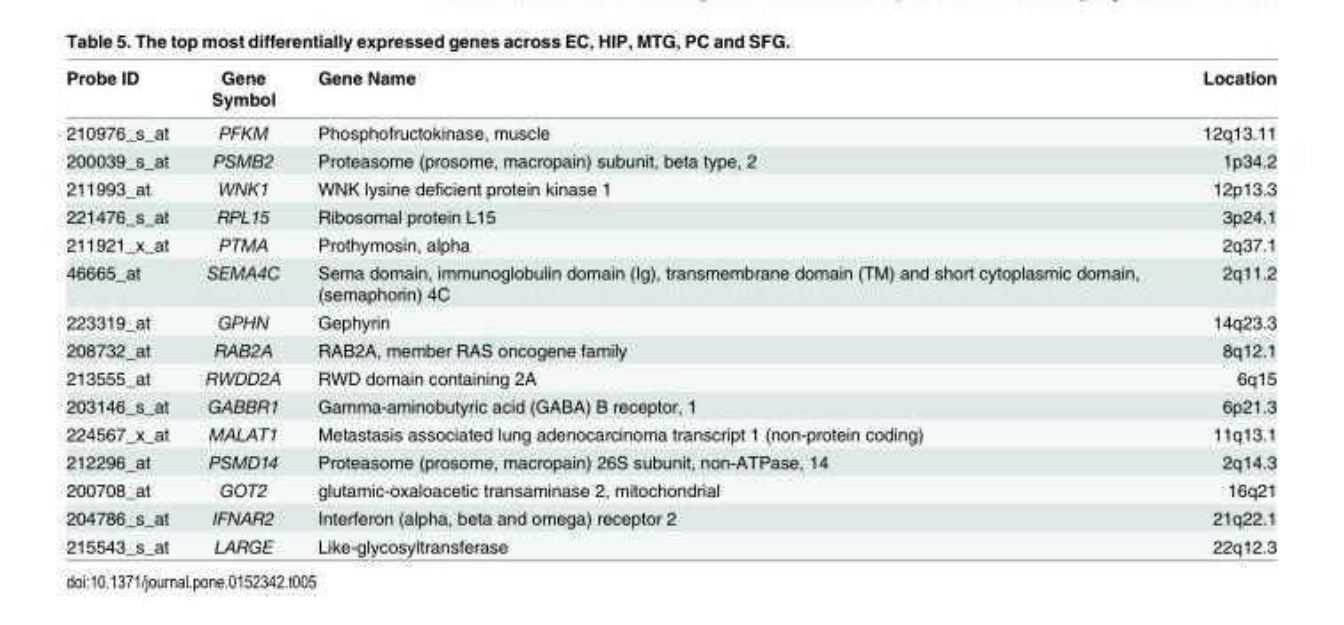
<table><thead><tr><td>Probe ID</td><td>Gene Symbol</td><td>Gene Name</td><td>Location</td></tr></thead><tbody><tr><td>210976_s_at</td><td>PFKM</td><td>Phosphofructokinase, muscle</td><td>12q13.11</td></tr><tr><td>200039_s_at</td><td>PSMB2</td><td>Proteasome (prosome, macropain) subunit, beta type, 2</td><td>1p34.2</td></tr><tr><td>211993_at</td><td>WNK1</td><td>WNK lysine deficient protein kinase 1</td><td>12p13.3</td></tr><tr><td>221476_s_at</td><td>RPL15</td><td>Ribosomal protein L15</td><td>3p24.1</td></tr><tr><td>211921_x_at</td><td>PTMA</td><td>Prothymosin, alpha</td><td>2q37.1</td></tr><tr><td>46665_at</td><td>SEMA4C</td><td>Sema domain, immunoglobulin domain (Ig), transmembrane domain (TM) and short cytoplasmic domain, (semaphorin) 4C</td><td>2q11.2</td></tr><tr><td>223319_at</td><td>GPHN</td><td>Gephyrin</td><td>14q23.3</td></tr><tr><td>208732_at</td><td>RAB2A</td><td>RAB2A, member RAS oncogene family</td><td>8q12.1</td></tr><tr><td>213555_at</td><td>RWDD2A</td><td>RWD domain containing 2A</td><td>6q15</td></tr><tr><td>203146_s_at</td><td>GABBR1</td><td>Gamma-aminobutyric acid (GABA) B receptor, 1</td><td>6p21.3</td></tr><tr><td>224567_x_at</td><td>MALAT1</td><td>Metastasis associated lung adenocarcinoma transcript 1 (non-protein coding)</td><td>11q13.1</td></tr><tr><td>212296_at</td><td>PSMD14</td><td>Proteasome (prosome, macropain) 26S subunit, non-ATPase, 14</td><td>2q14.3</td></tr><tr><td>200708_at</td><td>GOT2</td><td>glutamic-oxaloacetic transaminase 2, mitochondrial</td><td>16q21</td></tr><tr><td>204786_s_at</td><td>IFNAR2</td><td>Interferon (alpha, beta and omega) receptor 2</td><td>21q22.1</td></tr><tr><td>215543_s_at</td><td>LARGE</td><td>Like-glycosyltransferase</td><td>22q12.3</td></tr></tbody></table>